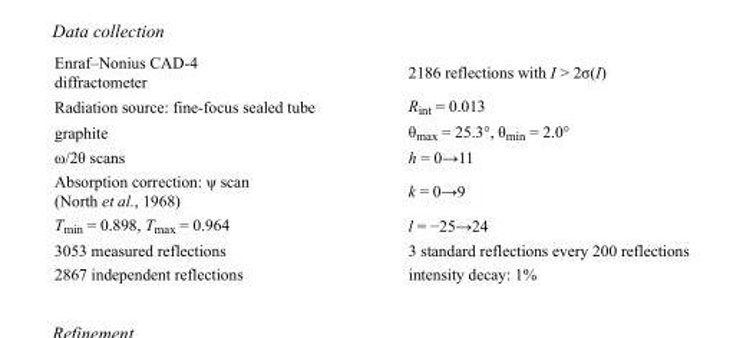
<table><tbody><tr><td>Enraf–Nonius CAD-4 diffractometer</td><td>2186 reflections with I &gt; 2σ(I)</td></tr><tr><td>Radiation source: fine-focus sealed tube</td><td>R<sub>int</sub> = 0.013</td></tr><tr><td>graphite</td><td>θ<sub>max</sub> = 25.3°, θ<sub>min</sub> = 2.0°</td></tr><tr><td>ω/2θ scans</td><td>h = 0→11</td></tr><tr><td>Absorption correction: ψ scan (North et al., 1968)</td><td>k = 0→9</td></tr><tr><td>T<sub>min</sub> = 0.898, T<sub>max</sub> = 0.964</td><td>l = −25→24</td></tr><tr><td>3053 measured reflections</td><td>3 standard reflections every 200 reflections</td></tr><tr><td>2867 independent reflections</td><td>intensity decay: 1%</td></tr></tbody></table>